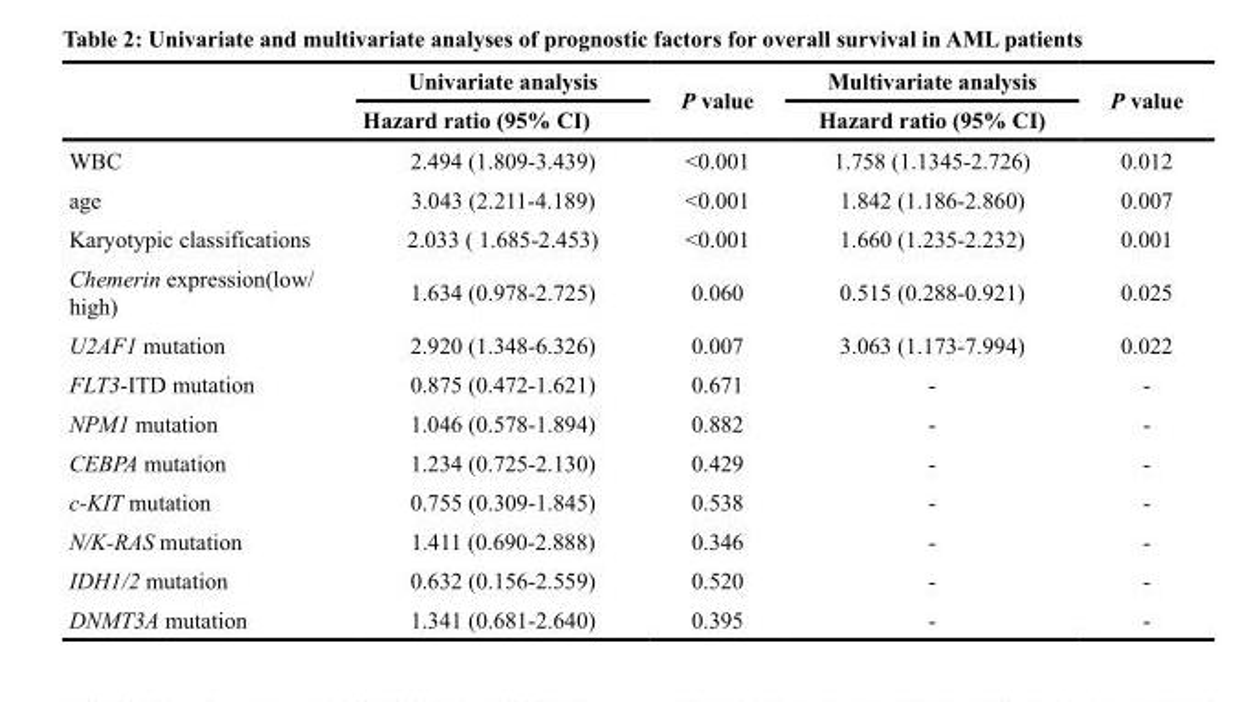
<table><thead><tr><td rowspan="2"></td><td rowspan="2">Univariate analysis Hazard ratio (95% CI)</td><td rowspan="2">P value</td><td rowspan="2">Multivariate analysis Hazard ratio (95% CI)</td><td rowspan="2">P value</td></tr><tr></tr></thead><tbody><tr><td>WBC</td><td>2.494 (1.809-3.439)</td><td>&lt;0.001</td><td>1.758 (1.1345-2.726)</td><td>0.012</td></tr><tr><td>age</td><td>3.043 (2.211-4.189)</td><td>&lt;0.001</td><td>1.842 (1.186-2.860)</td><td>0.007</td></tr><tr><td>Karyotypic classifications</td><td>2.033 ( 1.685-2.453)</td><td>&lt;0.001</td><td>1.660 (1.235-2.232)</td><td>0.001</td></tr><tr><td>Chemerin expression(low/ high)</td><td>1.634 (0.978-2.725)</td><td>0.060</td><td>0.515 (0.288-0.921)</td><td>0.025</td></tr><tr><td>U2AF1 mutation</td><td>2.920 (1.348-6.326)</td><td>0.007</td><td>3.063 (1.173-7.994)</td><td>0.022</td></tr><tr><td>FLT3-ITD mutation</td><td>0.875 (0.472-1.621)</td><td>0.671</td><td>-</td><td>-</td></tr><tr><td>NPM1 mutation</td><td>1.046 (0.578-1.894)</td><td>0.882</td><td>-</td><td>-</td></tr><tr><td>CEBPA mutation</td><td>1.234 (0.725-2.130)</td><td>0.429</td><td>-</td><td>-</td></tr><tr><td>c-KIT mutation</td><td>0.755 (0.309-1.845)</td><td>0.538</td><td>-</td><td>-</td></tr><tr><td>N/K-RAS mutation</td><td>1.411 (0.690-2.888)</td><td>0.346</td><td>-</td><td>-</td></tr><tr><td>IDH1/2 mutation</td><td>0.632 (0.156-2.559)</td><td>0.520</td><td>-</td><td>-</td></tr><tr><td>DNMT3A mutation</td><td>1.341 (0.681-2.640)</td><td>0.395</td><td>-</td><td>-</td></tr></tbody></table>